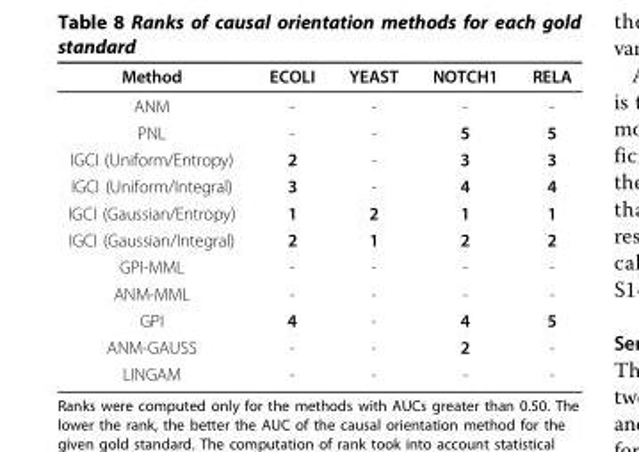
<table><thead><tr><td>Method</td><td>ECOLI</td><td>YEAST</td><td>NOTCH1</td><td>RELA</td></tr></thead><tbody><tr><td>ANM</td><td>-</td><td>-</td><td>-</td><td>-</td></tr><tr><td>PNL</td><td>-</td><td>-</td><td>5</td><td>5</td></tr><tr><td>IGCI (Uniform/Entropy)</td><td>2</td><td>-</td><td>3</td><td>3</td></tr><tr><td>IGCI (Uniform/Integral)</td><td>3</td><td>-</td><td>4</td><td>4</td></tr><tr><td>IGCI (Gaussian/Entropy)</td><td>1</td><td>2</td><td>1</td><td>1</td></tr><tr><td>IGCI (Gaussian/Integral)</td><td>2</td><td>1</td><td>2</td><td>2</td></tr><tr><td>GPI-MML</td><td>-</td><td>-</td><td>-</td><td>-</td></tr><tr><td>ANM-MML</td><td>-</td><td>-</td><td>-</td><td>-</td></tr><tr><td>GPI</td><td>4</td><td>-</td><td>4</td><td>5</td></tr><tr><td>ANM-GAUSS</td><td>-</td><td>-</td><td>2</td><td>-</td></tr><tr><td>LINGAM</td><td>-</td><td>-</td><td>-</td><td>-</td></tr></tbody></table>